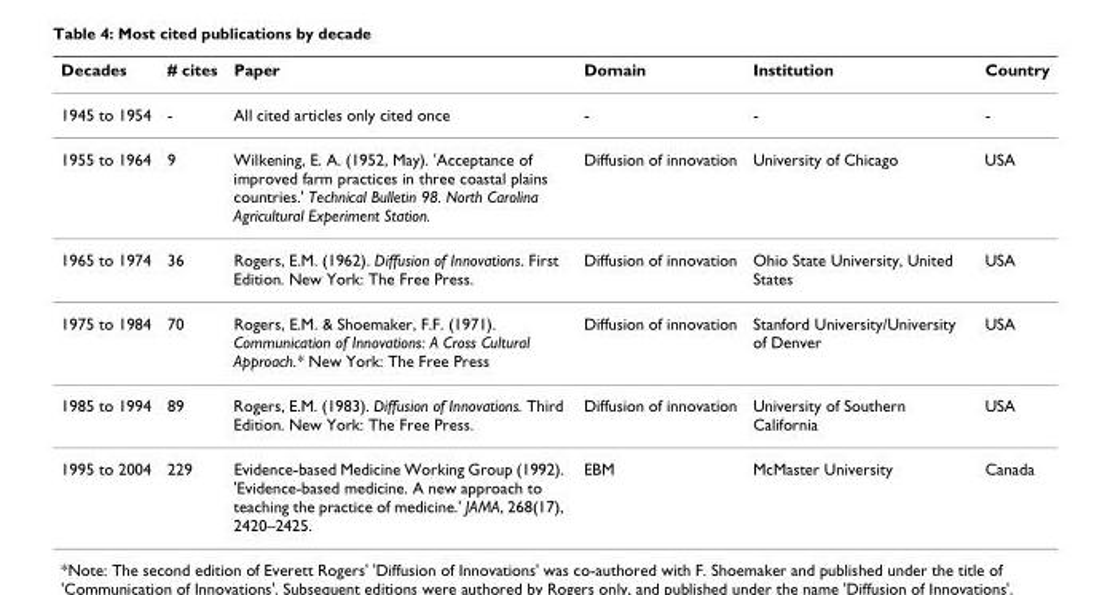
<table><thead><tr><td>Decades</td><td># cites</td><td>Paper</td><td>Domain</td><td>Institution</td><td>Country</td></tr></thead><tbody><tr><td>1945 to 1954</td><td>-</td><td>All cited articles only cited once</td><td>-</td><td>-</td><td>-</td></tr><tr><td>1955 to 1964</td><td>9</td><td>Wilkening, E. A. (1952, May). &#x27;Acceptance of improved farm practices in three coastal plains countries.&#x27; Technical Bulletin 98. North Carolina Agricultural Experiment Station.</td><td>Diffusion of innovation</td><td>University of Chicago</td><td>USA</td></tr><tr><td>1965 to 1974</td><td>36</td><td>Rogers, E.M. (1962). Diffusion of Innovations. First Edition. New York: The Free Press.</td><td>Diffusion of innovation</td><td>Ohio State University, United States</td><td>USA</td></tr><tr><td>1975 to 1984</td><td>70</td><td>Rogers, E.M. &amp; Shoemaker, F.F. (1971). Communication of Innovations: A Cross Cultural Approach.* New York: The Free Press</td><td>Diffusion of innovation</td><td>Stanford University/University of Denver</td><td>USA</td></tr><tr><td>1985 to 1994</td><td>89</td><td>Rogers, E.M. (1983). Diffusion of Innovations. Third Edition. New York: The Free Press.</td><td>Diffusion of innovation</td><td>University of Southern California</td><td>USA</td></tr><tr><td>1995 to 2004</td><td>229</td><td>Evidence-based Medicine Working Group (1992). &#x27;Evidence-based medicine. A new approach to teaching the practice of medicine.&#x27; JAMA, 268(17), 2420–2425.</td><td>EBM</td><td>McMaster University</td><td>Canada</td></tr></tbody></table>